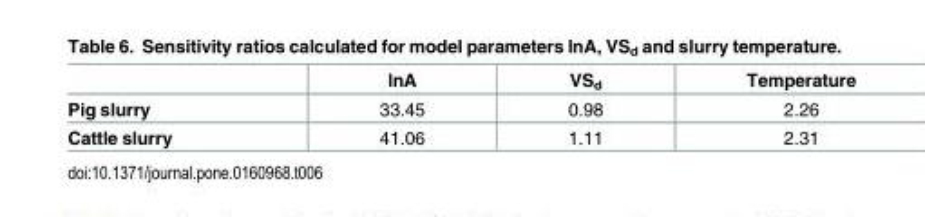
<table><thead><tr><td></td><td>lnA</td><td>VS<sub>d</sub></td><td>Temperature</td></tr></thead><tbody><tr><td>Pig slurry</td><td>33.45</td><td>0.98</td><td>2.26</td></tr><tr><td>Cattle slurry</td><td>41.06</td><td>1.11</td><td>2.31</td></tr></tbody></table>